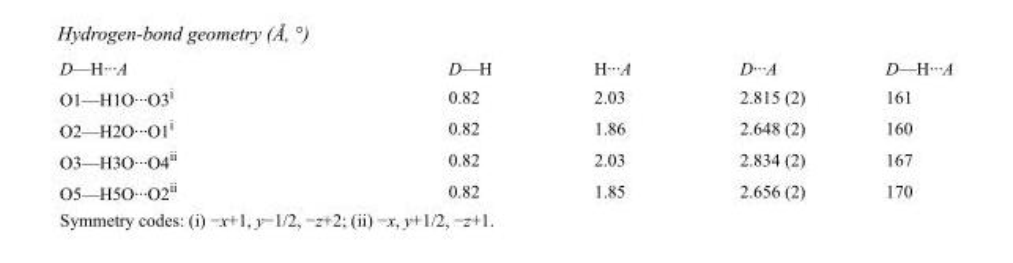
<table><tbody><tr><td>D—H···A</td><td>D—H</td><td>H···A</td><td>D···A</td><td>D—H···A</td></tr><tr><td>O1—H1O···O3<sup>i</sup></td><td>0.82</td><td>2.03</td><td>2.815 (2)</td><td>161</td></tr><tr><td>O2—H2O···O1<sup>i</sup></td><td>0.82</td><td>1.86</td><td>2.648 (2)</td><td>160</td></tr><tr><td>O3—H3O···O4<sup>ii</sup></td><td>0.82</td><td>2.03</td><td>2.834 (2)</td><td>167</td></tr><tr><td>O5—H5O···O2<sup>ii</sup></td><td>0.82</td><td>1.85</td><td>2.656 (2)</td><td>170</td></tr></tbody></table>